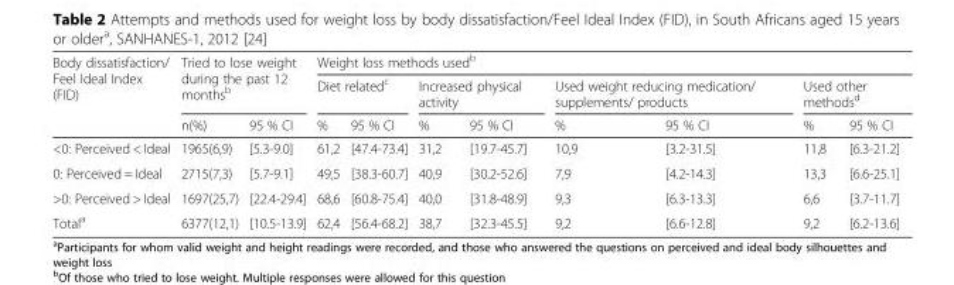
<table><thead><tr><td rowspan="3">Body dissatisfaction/ Feel Ideal Index (FID)</td><td rowspan="2" colspan="2">Tried to lose weight during the past 12 months<sup>b</sup></td><td colspan="8">Weight loss methods used<sup>b</sup></td></tr><tr><td colspan="2">Diet related<sup>c</sup></td><td colspan="2">Increased physical activity</td><td colspan="2">Used weight reducing medication/ supplements/ products</td><td colspan="2">Used other methods<sup>d</sup></td></tr><tr><td>n(%)</td><td>95 % CI</td><td>%</td><td>95 % CI</td><td>%</td><td>95 % CI</td><td>%</td><td>95 % CI</td><td>%</td><td>95 % CI</td></tr></thead><tbody><tr><td>&lt;0: Perceived &lt; Ideal</td><td>1965(6,9)</td><td>[5.3-9.0]</td><td>61,2</td><td>[47.4-73.4]</td><td>31,2</td><td>[19.7-45.7]</td><td>10,9</td><td>[3.2-31.5]</td><td>11,8</td><td>[6.3-21.2]</td></tr><tr><td>0: Perceived = Ideal</td><td>2715(7,3)</td><td>[5.7-9.1]</td><td>49,5</td><td>[38.3-60.7]</td><td>40,9</td><td>[30.2-52.6]</td><td>7,9</td><td>[4.2-14.3]</td><td>13,3</td><td>[6.6-25.1]</td></tr><tr><td>&gt;0: Perceived &gt; Ideal</td><td>1697(25,7)</td><td>[22.4-29.4]</td><td>68,6</td><td>[60.8-75.4]</td><td>40,0</td><td>[31.8-48.9]</td><td>9,3</td><td>[6.3-13.3]</td><td>6,6</td><td>[3.7-11.7]</td></tr><tr><td>Total<sup>a</sup></td><td>6377(12,1)</td><td>[10.5-13.9]</td><td>62,4</td><td>[56.4-68.2]</td><td>38,7</td><td>[32.3-45.5]</td><td>9,2</td><td>[6.6-12.8]</td><td>9,2</td><td>[6.2-13.6]</td></tr></tbody></table>